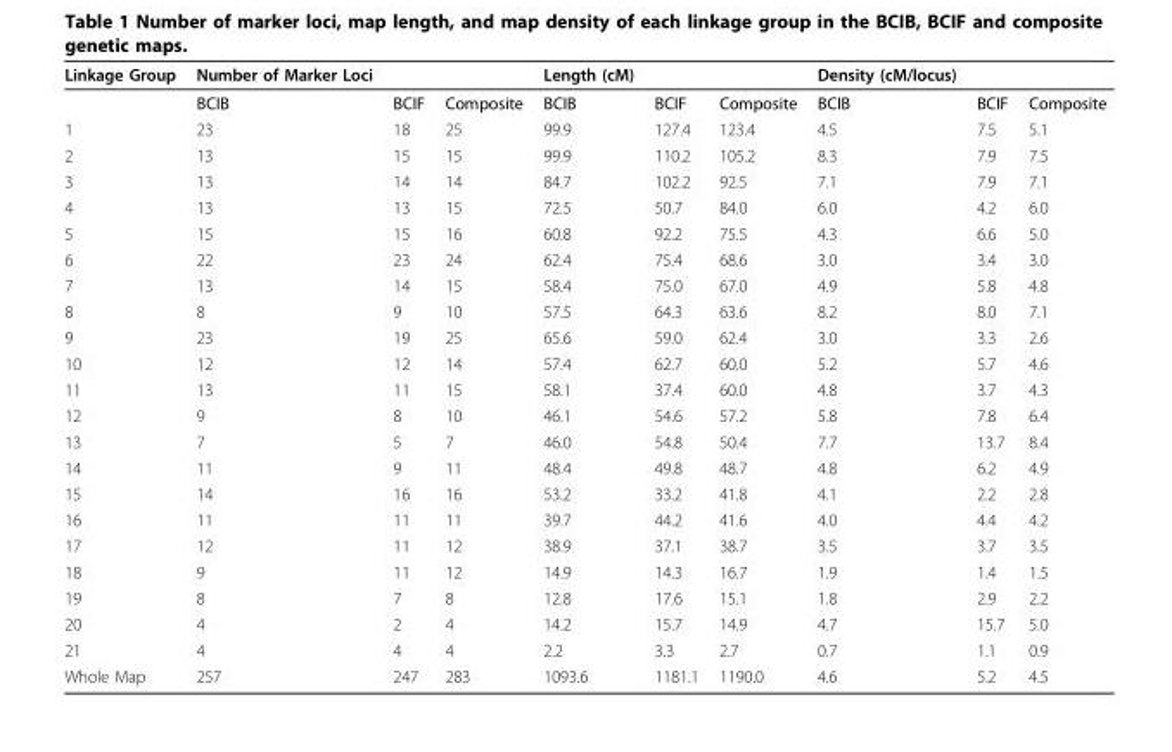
<table><thead><tr><td>Linkage Group</td><td>Number of Marker Loci</td><td></td><td></td><td>Length (cM)</td><td></td><td></td><td>Density (cM/locus)</td><td></td><td></td></tr></thead><tbody><tr><td></td><td>BCIB</td><td>BCIF</td><td>Composite</td><td>BCIB</td><td>BCIF</td><td>Composite</td><td>BCIB</td><td>BCIF</td><td>Composite</td></tr><tr><td>1</td><td>23</td><td>18</td><td>25</td><td>99.9</td><td>127.4</td><td>123.4</td><td>4.5</td><td>7.5</td><td>5.1</td></tr><tr><td>2</td><td>13</td><td>15</td><td>15</td><td>99.9</td><td>110.2</td><td>105.2</td><td>8.3</td><td>7.9</td><td>7.5</td></tr><tr><td>3</td><td>13</td><td>14</td><td>14</td><td>84.7</td><td>102.2</td><td>92.5</td><td>7.1</td><td>7.9</td><td>7.1</td></tr><tr><td>4</td><td>13</td><td>13</td><td>15</td><td>72.5</td><td>50.7</td><td>84.0</td><td>6.0</td><td>4.2</td><td>6.0</td></tr><tr><td>5</td><td>15</td><td>15</td><td>16</td><td>60.8</td><td>92.2</td><td>75.5</td><td>4.3</td><td>6.6</td><td>5.0</td></tr><tr><td>6</td><td>22</td><td>23</td><td>24</td><td>62.4</td><td>75.4</td><td>68.6</td><td>3.0</td><td>3.4</td><td>3.0</td></tr><tr><td>7</td><td>13</td><td>14</td><td>15</td><td>58.4</td><td>75.0</td><td>67.0</td><td>4.9</td><td>5.8</td><td>4.8</td></tr><tr><td>8</td><td>8</td><td>9</td><td>10</td><td>57.5</td><td>64.3</td><td>63.6</td><td>8.2</td><td>8.0</td><td>7.1</td></tr><tr><td>9</td><td>23</td><td>19</td><td>25</td><td>65.6</td><td>59.0</td><td>62.4</td><td>3.0</td><td>3.3</td><td>2.6</td></tr><tr><td>10</td><td>12</td><td>12</td><td>14</td><td>57.4</td><td>62.7</td><td>60.0</td><td>5.2</td><td>5.7</td><td>4.6</td></tr><tr><td>11</td><td>13</td><td>11</td><td>15</td><td>58.1</td><td>37.4</td><td>60.0</td><td>4.8</td><td>3.7</td><td>4.3</td></tr><tr><td>12</td><td>9</td><td>8</td><td>10</td><td>46.1</td><td>54.6</td><td>57.2</td><td>5.8</td><td>7.8</td><td>6.4</td></tr><tr><td>13</td><td>7</td><td>5</td><td>7</td><td>46.0</td><td>54.8</td><td>50.4</td><td>7.7</td><td>13.7</td><td>8.4</td></tr><tr><td>14</td><td>11</td><td>9</td><td>11</td><td>48.4</td><td>49.8</td><td>48.7</td><td>4.8</td><td>6.2</td><td>4.9</td></tr><tr><td>15</td><td>14</td><td>16</td><td>16</td><td>53.2</td><td>33.2</td><td>41.8</td><td>4.1</td><td>2.2</td><td>2.8</td></tr><tr><td>16</td><td>11</td><td>11</td><td>11</td><td>39.7</td><td>44.2</td><td>41.6</td><td>4.0</td><td>4.4</td><td>4.2</td></tr><tr><td>17</td><td>12</td><td>11</td><td>12</td><td>38.9</td><td>37.1</td><td>38.7</td><td>3.5</td><td>3.7</td><td>3.5</td></tr><tr><td>18</td><td>9</td><td>11</td><td>12</td><td>14.9</td><td>14.3</td><td>16.7</td><td>1.9</td><td>1.4</td><td>1.5</td></tr><tr><td>19</td><td>8</td><td>7</td><td>8</td><td>12.8</td><td>17.6</td><td>15.1</td><td>1.8</td><td>2.9</td><td>2.2</td></tr><tr><td>20</td><td>4</td><td>2</td><td>4</td><td>14.2</td><td>15.7</td><td>14.9</td><td>4.7</td><td>15.7</td><td>5.0</td></tr><tr><td>21</td><td>4</td><td>4</td><td>4</td><td>2.2</td><td>3.3</td><td>2.7</td><td>0.7</td><td>1.1</td><td>0.9</td></tr><tr><td>Whole Map</td><td>257</td><td>247</td><td>283</td><td>1093.6</td><td>1181.1</td><td>1190.0</td><td>4.6</td><td>5.2</td><td>4.5</td></tr></tbody></table>